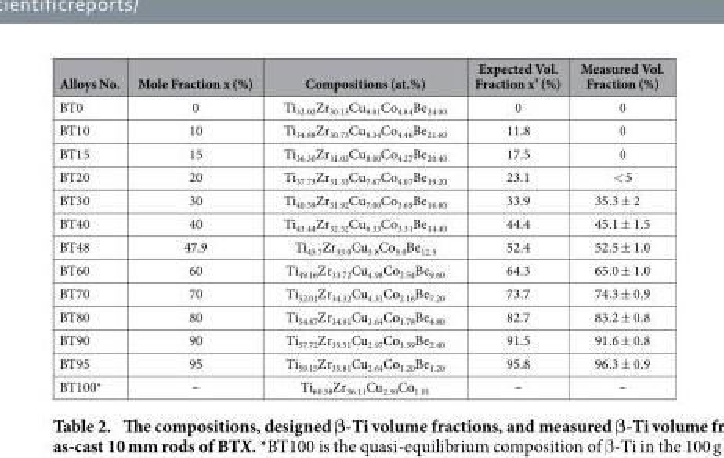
<table><thead><tr><td>Alloys No.</td><td>Mole Fraction x (%)</td><td>Compositions (at.%)</td><td>Expected Vol. Fraction x’ (%)</td><td>Measured Vol. Fraction (%)</td></tr></thead><tbody><tr><td>BT0</td><td>0</td><td>Ti<sub>32.02</sub>Zr<sub>30.13</sub>Cu<sub>9.01</sub>Co<sub>4.84</sub>Be<sub>24.00</sub></td><td>0</td><td>0</td></tr><tr><td>BT10</td><td>10</td><td>Ti<sub>34.88</sub>Zr<sub>30.73</sub>Cu<sub>8.34</sub>Co<sub>4.46</sub>Be<sub>21.60</sub></td><td>11.8</td><td>0</td></tr><tr><td>BT15</td><td>15</td><td>Ti<sub>36.30</sub>Zr<sub>31.03</sub>Cu<sub>8.00</sub>Co<sub>4.27</sub>Be<sub>20.40</sub></td><td>17.5</td><td>0</td></tr><tr><td>BT20</td><td>20</td><td>Ti<sub>37.73</sub>Zr<sub>31.33</sub>Cu<sub>7.67</sub>Co<sub>4.07</sub>Be<sub>19.20</sub></td><td>23.1</td><td>&lt; 5</td></tr><tr><td>BT30</td><td>30</td><td>Ti<sub>40.59</sub>Zr<sub>31.92</sub>Cu<sub>7.00</sub>Co<sub>3.69</sub>Be<sub>16.80</sub></td><td>33.9</td><td>35.3 ± 2</td></tr><tr><td>BT40</td><td>40</td><td>Ti<sub>43.44</sub>Zr<sub>32.52</sub>Cu<sub>6.33</sub>Co<sub>3.31</sub>Be<sub>14.40</sub></td><td>44.4</td><td>45.1 ± 1.5</td></tr><tr><td>BT48</td><td>47.9</td><td>Ti<sub>45.7</sub>Zr<sub>33.0</sub>Cu<sub>5.8</sub>Co<sub>3.0</sub>Be<sub>12.5</sub></td><td>52.4</td><td>52.5 ± 1.0</td></tr><tr><td>BT60</td><td>60</td><td>Ti<sub>49.16</sub>Zr<sub>33.72</sub>Cu<sub>4.98</sub>Co<sub>2.54</sub>Be<sub>9.60</sub></td><td>64.3</td><td>65.0 ± 1.0</td></tr><tr><td>BT70</td><td>70</td><td>Ti<sub>52.01</sub>Zr<sub>34.32</sub>Cu<sub>4.31</sub>Co<sub>2.16</sub>Be<sub>7.20</sub></td><td>73.7</td><td>74.3 ± 0.9</td></tr><tr><td>BT80</td><td>80</td><td>Ti<sub>54.87</sub>Zr<sub>34.91</sub>Cu<sub>3.64</sub>Co<sub>1.78</sub>Be<sub>4.80</sub></td><td>82.7</td><td>83.2 ± 0.8</td></tr><tr><td>BT90</td><td>90</td><td>Ti<sub>57.72</sub>Zr<sub>35.51</sub>Cu<sub>2.97</sub>Co<sub>1.39</sub>Be<sub>2.40</sub></td><td>91.5</td><td>91.6 ± 0.8</td></tr><tr><td>BT95</td><td>95</td><td>Ti<sub>59.15</sub>Zr<sub>35.81</sub>Cu<sub>2.64</sub>Co<sub>1.20</sub>Be<sub>1.20</sub></td><td>95.8</td><td>96.3 ± 0.9</td></tr><tr><td>BT100*</td><td>–</td><td>Ti<sub>60.58</sub>Zr<sub>36.11</sub>Cu<sub>2.30</sub>Co<sub>1.01</sub></td><td>–</td><td>–</td></tr></tbody></table>